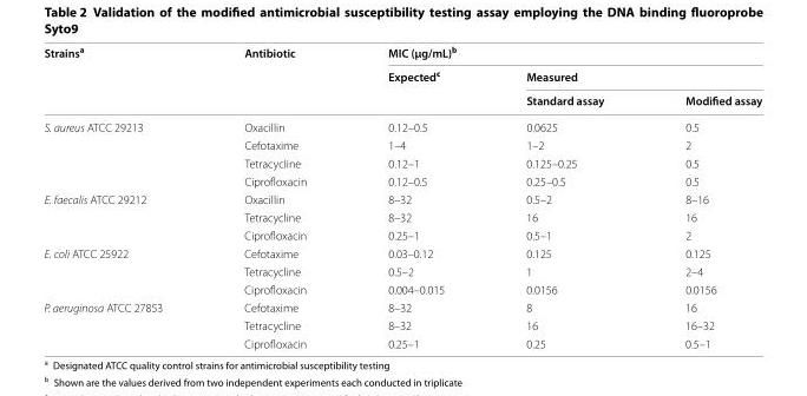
<table><thead><tr><td rowspan="3">Strains<sup>a</sup></td><td rowspan="3">Antibiotic</td><td colspan="3">MIC (μg/mL)<sup>b</sup></td></tr><tr><td rowspan="2">Expected<sup>c</sup></td><td colspan="2">Measured</td></tr><tr><td>Standard assay</td><td>Modified assay</td></tr></thead><tbody><tr><td rowspan="4">S. aureus ATCC 29213</td><td>Oxacillin</td><td>0.12–0.5</td><td>0.0625</td><td>0.5</td></tr><tr><td>Cefotaxime</td><td>1–4</td><td>1–2</td><td>2</td></tr><tr><td>Tetracycline</td><td>0.12–1</td><td>0.125–0.25</td><td>0.5</td></tr><tr><td>Ciprofloxacin</td><td>0.12–0.5</td><td>0.25–0.5</td><td>0.5</td></tr><tr><td rowspan="3">E. faecalis ATCC 29212</td><td>Oxacillin</td><td>8–32</td><td>0.5–2</td><td>8–16</td></tr><tr><td>Tetracycline</td><td>8–32</td><td>16</td><td>16</td></tr><tr><td>Ciprofloxacin</td><td>0.25–1</td><td>0.5–1</td><td>2</td></tr><tr><td rowspan="3">E. coli ATCC 25922</td><td>Cefotaxime</td><td>0.03–0.12</td><td>0.125</td><td>0.125</td></tr><tr><td>Tetracycline</td><td>0.5–2</td><td>1</td><td>2–4</td></tr><tr><td>Ciprofloxacin</td><td>0.004–0.015</td><td>0.0156</td><td>0.0156</td></tr><tr><td rowspan="3">P. aeruginosa ATCC 27853</td><td>Cefotaxime</td><td>8–32</td><td>8</td><td>16</td></tr><tr><td>Tetracycline</td><td>8–32</td><td>16</td><td>16–32</td></tr><tr><td>Ciprofloxacin</td><td>0.25–1</td><td>0.25</td><td>0.5–1</td></tr></tbody></table>